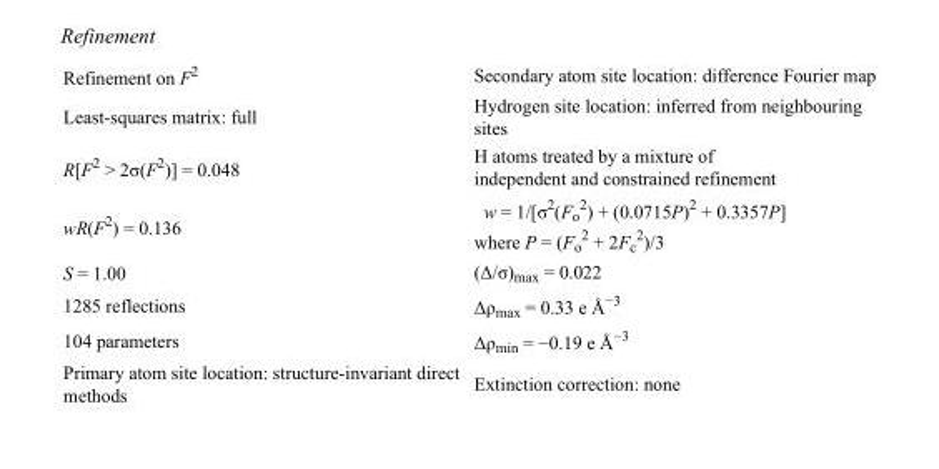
<table><tbody><tr><td>Refinement on F<sup>2</sup></td><td>Secondary atom site location: difference Fourier map</td></tr><tr><td>Least-squares matrix: full</td><td>Hydrogen site location: inferred from neighbouring sites</td></tr><tr><td>R[F<sup>2</sup> &gt; 2σ(F<sup>2</sup>)] = 0.048</td><td>H atoms treated by a mixture of independent and constrained refinement</td></tr><tr><td>wR(F<sup>2</sup>) = 0.136</td><td>w = 1/[σ<sup>2</sup>(F<sub>o</sub> <sup>2</sup>) + (0.0715P)<sup>2</sup> + 0.3357P] where P = (F<sub>o</sub> <sup>2</sup> + 2F<sub>c</sub> <sup>2</sup>)/3</td></tr><tr><td>S = 1.00</td><td>(Δ/σ)<sub>max</sub> = 0.022</td></tr><tr><td>1285 reflections</td><td>Δρ<sub>max</sub> = 0.33 e Å<sup>−3</sup></td></tr><tr><td>104 parameters</td><td>Δρ<sub>min</sub> = −0.19 e Å<sup>−3</sup></td></tr><tr><td>Primary atom site location: structure-invariant direct methods</td><td>Extinction correction: none</td></tr></tbody></table>